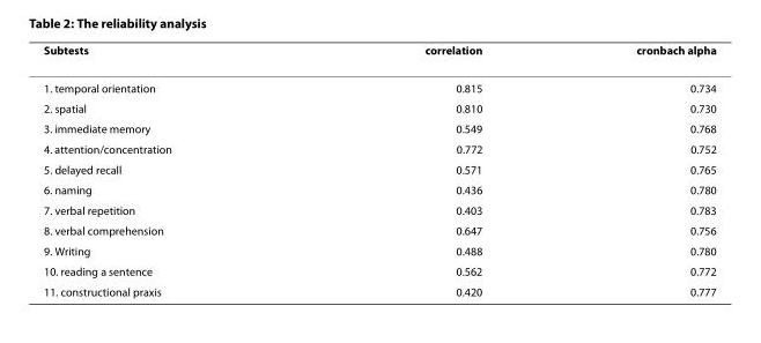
<table><thead><tr><td>Subtests</td><td>correlation</td><td>cronbach alpha</td></tr></thead><tbody><tr><td>1. temporal orientation</td><td>0.815</td><td>0.734</td></tr><tr><td>2. spatial</td><td>0.810</td><td>0.730</td></tr><tr><td>3. immediate memory</td><td>0.549</td><td>0.768</td></tr><tr><td>4. attention/concentration</td><td>0.772</td><td>0.752</td></tr><tr><td>5. delayed recall</td><td>0.571</td><td>0.765</td></tr><tr><td>6. naming</td><td>0.436</td><td>0.780</td></tr><tr><td>7. verbal repetition</td><td>0.403</td><td>0.783</td></tr><tr><td>8. verbal comprehension</td><td>0.647</td><td>0.756</td></tr><tr><td>9. Writing</td><td>0.488</td><td>0.780</td></tr><tr><td>10. reading a sentence</td><td>0.562</td><td>0.772</td></tr><tr><td>11. constructional praxis</td><td>0.420</td><td>0.777</td></tr></tbody></table>